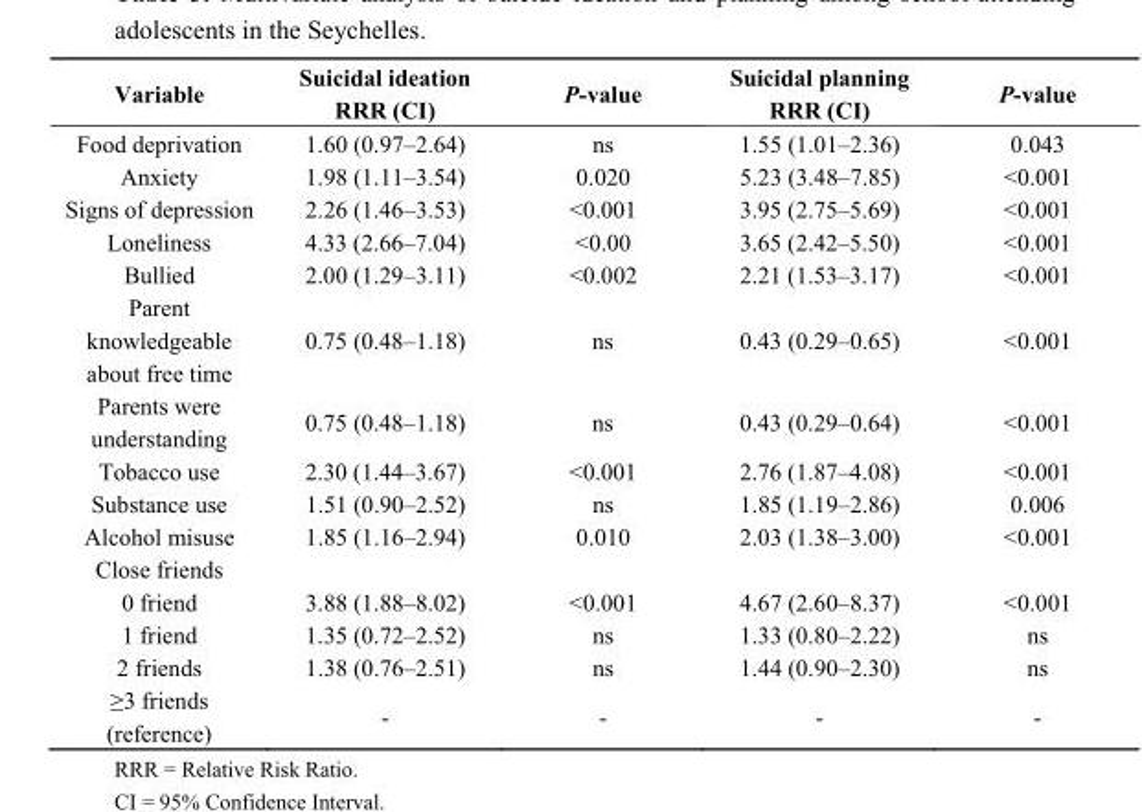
<table><thead><tr><td>Variable</td><td>Suicidal ideation RRR (CI)</td><td>P-value</td><td>Suicidal planning RRR (CI)</td><td>P-value</td></tr></thead><tbody><tr><td>Food deprivation</td><td>1.60 (0.97–2.64)</td><td>ns</td><td>1.55 (1.01–2.36)</td><td>0.043</td></tr><tr><td>Anxiety</td><td>1.98 (1.11–3.54)</td><td>0.020</td><td>5.23 (3.48–7.85)</td><td>&lt;0.001</td></tr><tr><td>Signs of depression</td><td>2.26 (1.46–3.53)</td><td>&lt;0.001</td><td>3.95 (2.75–5.69)</td><td>&lt;0.001</td></tr><tr><td>Loneliness</td><td>4.33 (2.66–7.04)</td><td>&lt;0.00</td><td>3.65 (2.42–5.50)</td><td>&lt;0.001</td></tr><tr><td>Bullied</td><td>2.00 (1.29–3.11)</td><td>&lt;0.002</td><td>2.21 (1.53–3.17)</td><td>&lt;0.001</td></tr><tr><td>Parent knowledgeable about free time</td><td>0.75 (0.48–1.18)</td><td>ns</td><td>0.43 (0.29–0.65)</td><td>&lt;0.001</td></tr><tr><td>Parents were understanding</td><td>0.75 (0.48–1.18)</td><td>ns</td><td>0.43 (0.29–0.64)</td><td>&lt;0.001</td></tr><tr><td>Tobacco use</td><td>2.30 (1.44–3.67)</td><td>&lt;0.001</td><td>2.76 (1.87–4.08)</td><td>&lt;0.001</td></tr><tr><td>Substance use</td><td>1.51 (0.90–2.52)</td><td>ns</td><td>1.85 (1.19–2.86)</td><td>0.006</td></tr><tr><td>Alcohol misuse</td><td>1.85 (1.16–2.94)</td><td>0.010</td><td>2.03 (1.38–3.00)</td><td>&lt;0.001</td></tr><tr><td colspan="5">Close friends</td></tr><tr><td>0 friend</td><td>3.88 (1.88–8.02)</td><td>&lt;0.001</td><td>4.67 (2.60–8.37)</td><td>&lt;0.001</td></tr><tr><td>1 friend</td><td>1.35 (0.72–2.52)</td><td>ns</td><td>1.33 (0.80–2.22)</td><td>ns</td></tr><tr><td>2 friends</td><td>1.38 (0.76–2.51)</td><td>ns</td><td>1.44 (0.90–2.30)</td><td>ns</td></tr><tr><td>≥3 friends (reference)</td><td>-</td><td>-</td><td>-</td><td>-</td></tr></tbody></table>